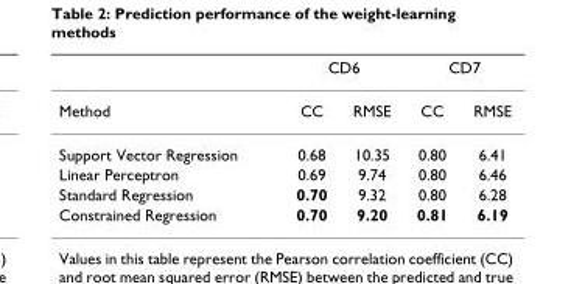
<table><thead><tr><td rowspan="2">Method</td><td colspan="2">CD6</td><td colspan="2">CD7</td></tr><tr><td>CC</td><td>RMSE</td><td>CC</td><td>RMSE</td></tr></thead><tbody><tr><td>Support Vector Regression</td><td>0.68</td><td>10.35</td><td>0.80</td><td>6.41</td></tr><tr><td>Linear Perceptron</td><td>0.69</td><td>9.74</td><td>0.80</td><td>6.46</td></tr><tr><td>Standard Regression</td><td>0.70</td><td>9.32</td><td>0.80</td><td>6.28</td></tr><tr><td>Constrained Regression</td><td>0.70</td><td>9.20</td><td>0.81</td><td>6.19</td></tr></tbody></table>